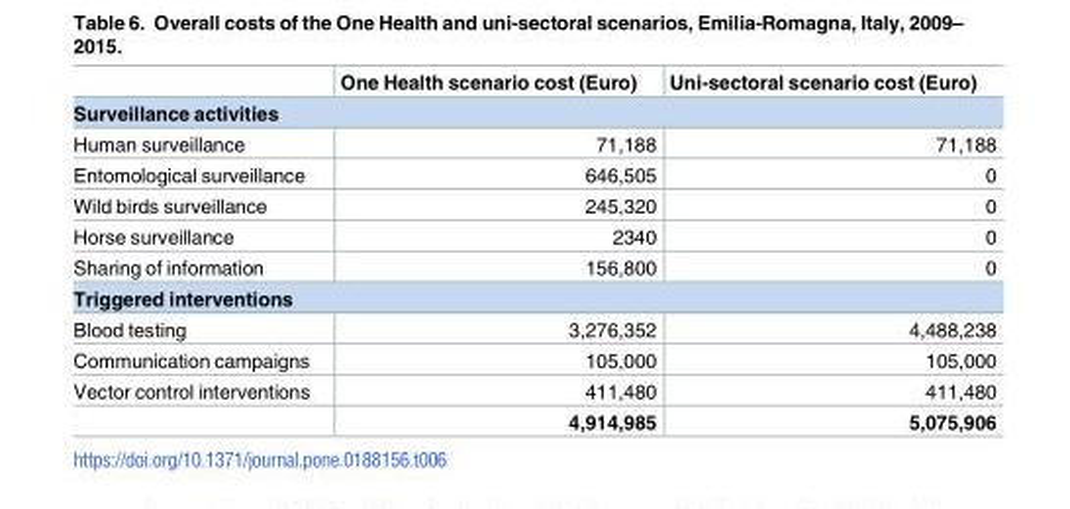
<table><thead><tr><td></td><td>One Health scenario cost (Euro)</td><td>Uni-sectoral scenario cost (Euro)</td></tr></thead><tbody><tr><td colspan="3">Surveillance activities</td></tr><tr><td>Human surveillance</td><td>71,188</td><td>71,188</td></tr><tr><td>Entomological surveillance</td><td>646,505</td><td>0</td></tr><tr><td>Wild birds surveillance</td><td>245,320</td><td>0</td></tr><tr><td>Horse surveillance</td><td>2340</td><td>0</td></tr><tr><td>Sharing of information</td><td>156,800</td><td>0</td></tr><tr><td colspan="3">Triggered interventions</td></tr><tr><td>Blood testing</td><td>3,276,352</td><td>4,488,238</td></tr><tr><td>Communication campaigns</td><td>105,000</td><td>105,000</td></tr><tr><td rowspan="2">Vector control interventions</td><td>411,480</td><td>411,480</td></tr><tr><td>4,914,985</td><td>5,075,906</td></tr></tbody></table>